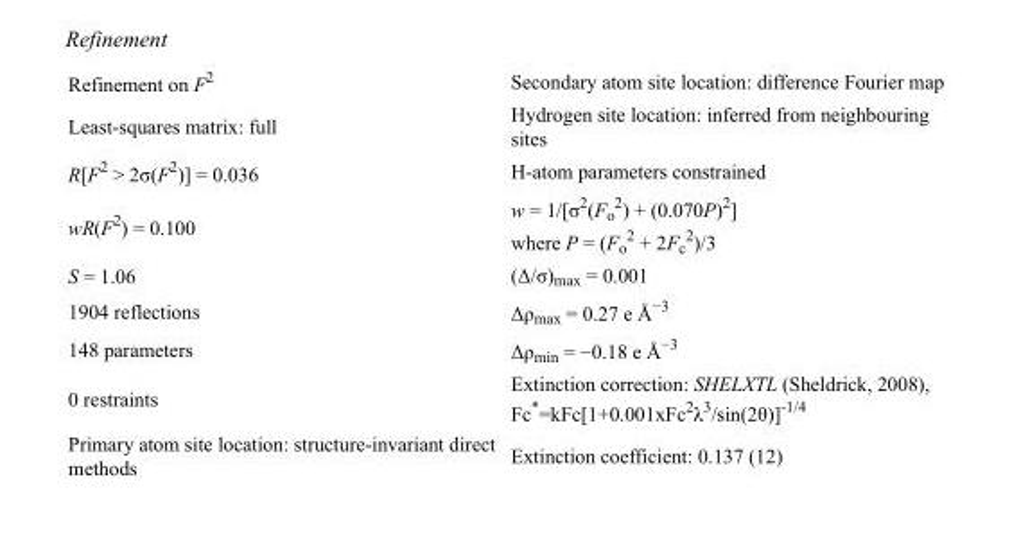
<table><tbody><tr><td>Refinement on F<sup>2</sup></td><td>Secondary atom site location: difference Fourier map</td></tr><tr><td>Least-squares matrix: full</td><td>Hydrogen site location: inferred from neighbouring sites</td></tr><tr><td>R[F<sup>2</sup> &gt; 2σ(F<sup>2</sup>)] = 0.036</td><td>H-atom parameters constrained</td></tr><tr><td>wR(F<sup>2</sup>) = 0.100</td><td>w = 1/[σ<sup>2</sup>(F<sub>o</sub> <sup>2</sup>) + (0.070P)<sup>2</sup>] where P = (F<sub>o</sub> <sup>2</sup> + 2F<sub>c</sub> <sup>2</sup>)/3</td></tr><tr><td>S = 1.06</td><td>(Δ/σ)<sub>max</sub> = 0.001</td></tr><tr><td>1904 reflections</td><td>Δρ<sub>max</sub> = 0.27 e Å<sup>−3</sup></td></tr><tr><td>148 parameters</td><td>Δρ<sub>min</sub> = −0.18 e Å<sup>−3</sup></td></tr><tr><td>0 restraints</td><td>Extinction correction: SHELXTL (Sheldrick, 2008), Fc*=kFc[1+0.001xFc<sup>2</sup>λ<sup>3</sup>/sin(2θ)]<sup>-1/4</sup></td></tr><tr><td>Primary atom site location: structure-invariant direct methods</td><td>Extinction coefficient: 0.137 (12)</td></tr></tbody></table>